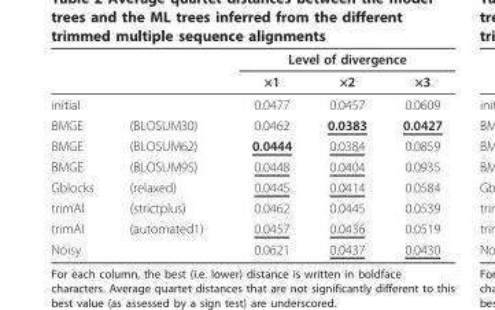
<table><thead><tr><td rowspan="2"></td><td rowspan="2"></td><td colspan="3">Level of divergence</td></tr><tr><td>×1</td><td>×2</td><td>×3</td></tr></thead><tbody><tr><td>initial</td><td></td><td>0.0477</td><td>0.0457</td><td>0.0609</td></tr><tr><td>BMGE</td><td>(BLOSUM30)</td><td>0.0462</td><td>0.0383</td><td>0.0427</td></tr><tr><td>BMGE</td><td>(BLOSUM62)</td><td>0.0444</td><td>0.0384</td><td>0.0859</td></tr><tr><td>BMGE</td><td>(BLOSUM95)</td><td>0.0448</td><td>0.0404</td><td>0.0935</td></tr><tr><td>Gblocks</td><td>(relaxed)</td><td>0.0445</td><td>0.0414</td><td>0.0584</td></tr><tr><td>trimAl</td><td>(strictplus)</td><td>0.0462</td><td>0.0445</td><td>0.0539</td></tr><tr><td>trimAl</td><td>(automated1)</td><td>0.0457</td><td>0.0436</td><td>0.0519</td></tr><tr><td>Noisy</td><td></td><td>0.0621</td><td>0.0437</td><td>0.0430</td></tr></tbody></table>